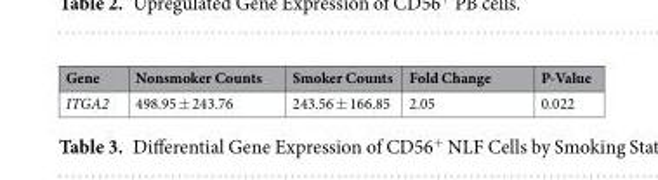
<table><thead><tr><td>Gene</td><td>Nonsmoker Counts</td><td>Smoker Counts</td><td>Fold Change</td><td>P-Value</td></tr></thead><tbody><tr><td>ITGA2</td><td>498.95 ± 243.76</td><td>243.56 ± 166.85</td><td>2.05</td><td>0.022</td></tr></tbody></table>